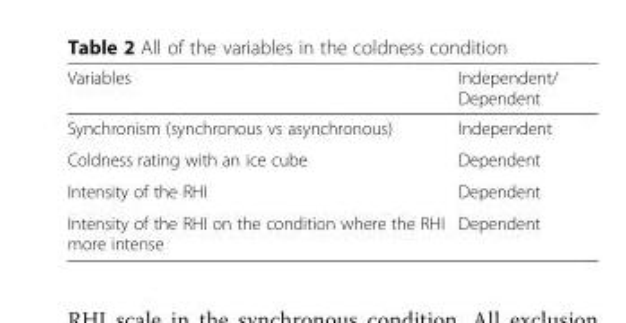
<table><thead><tr><td>Variables</td><td>Independent/ Dependent</td></tr></thead><tbody><tr><td>Synchronism (synchronous vs asynchronous)</td><td>Independent</td></tr><tr><td>Coldness rating with an ice cube</td><td>Dependent</td></tr><tr><td>Intensity of the RHI</td><td>Dependent</td></tr><tr><td>Intensity of the RHI on the condition where the RHI more intense</td><td>Dependent</td></tr></tbody></table>